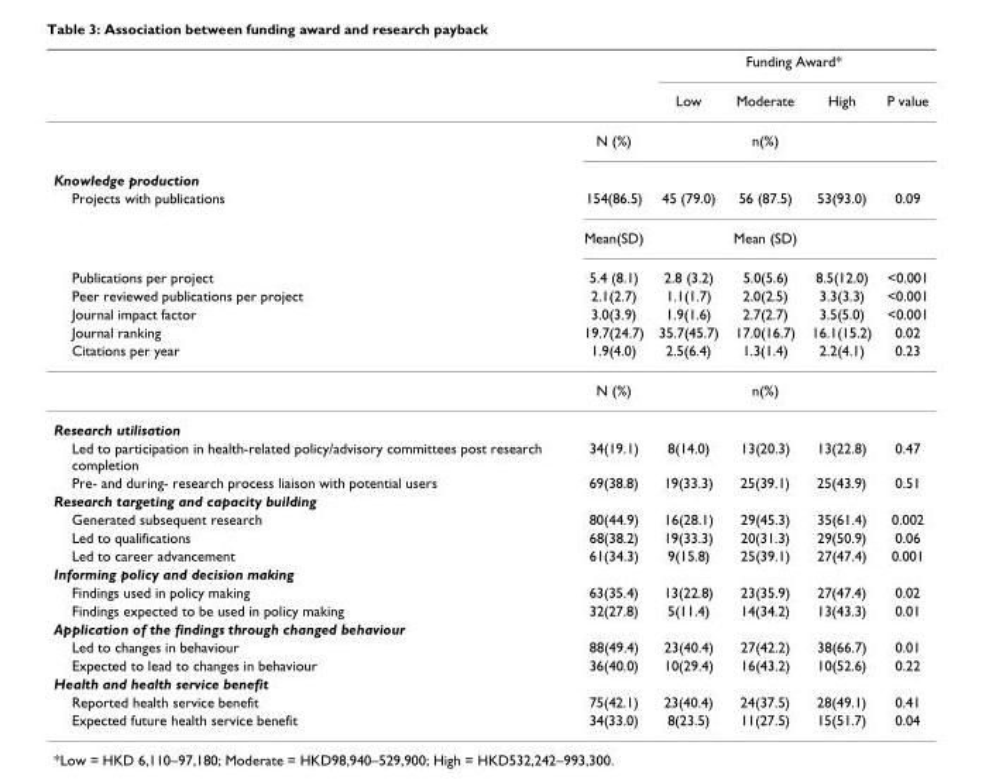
<table><thead><tr><td rowspan="2"></td><td rowspan="2"></td><td colspan="4">Funding Award*</td></tr><tr><td>Low</td><td>Moderate</td><td>High</td><td>P value</td></tr></thead><tbody><tr><td></td><td>N (%)</td><td></td><td>n(%)</td><td></td><td></td></tr><tr><td colspan="6">Knowledge production</td></tr><tr><td rowspan="2">Projects with publications</td><td>154(86.5)</td><td>45 (79.0)</td><td>56 (87.5)</td><td>53(93.0)</td><td>0.09</td></tr><tr><td>Mean(SD)</td><td></td><td>Mean (SD)</td><td></td><td></td></tr><tr><td>Publications per project</td><td>5.4 (8.1)</td><td>2.8 (3.2)</td><td>5.0(5.6)</td><td>8.5(12.0)</td><td>&lt;0.001</td></tr><tr><td>Peer reviewed publications per project</td><td>2.1(2.7)</td><td>1.1(1.7)</td><td>2.0(2.5)</td><td>3.3(3.3)</td><td>&lt;0.001</td></tr><tr><td>Journal impact factor</td><td>3.0(3.9)</td><td>1.9(1.6)</td><td>2.7(2.7)</td><td>3.5(5.0)</td><td>&lt;0.001</td></tr><tr><td>Journal ranking</td><td>19.7(24.7)</td><td>35.7(45.7)</td><td>17.0(16.7)</td><td>16.1(15.2)</td><td>0.02</td></tr><tr><td rowspan="2">Citations per year</td><td>1.9(4.0)</td><td>2.5(6.4)</td><td>1.3(1.4)</td><td>2.2(4.1)</td><td>0.23</td></tr><tr><td>N (%)</td><td></td><td>n(%)</td><td></td><td></td></tr><tr><td colspan="6">Research utilisation</td></tr><tr><td>Led to participation in health-related policy/advisory committees post research completion</td><td>34(19.1)</td><td>8(14.0)</td><td>13(20.3)</td><td>13(22.8)</td><td>0.47</td></tr><tr><td>Pre- and during- research process liaison with potential users</td><td>69(38.8)</td><td>19(33.3)</td><td>25(39.1)</td><td>25(43.9)</td><td>0.51</td></tr><tr><td colspan="6">Research targeting and capacity building</td></tr><tr><td>Generated subsequent research</td><td>80(44.9)</td><td>16(28.1)</td><td>29(45.3)</td><td>35(61.4)</td><td>0.002</td></tr><tr><td>Led to qualifications</td><td>68(38.2)</td><td>19(33.3)</td><td>20(31.3)</td><td>29(50.9)</td><td>0.06</td></tr><tr><td>Led to career advancement</td><td>61(34.3)</td><td>9(15.8)</td><td>25(39.1)</td><td>27(47.4)</td><td>0.001</td></tr><tr><td colspan="6">Informing policy and decision making</td></tr><tr><td>Findings used in policy making</td><td>63(35.4)</td><td>13(22.8)</td><td>23(35.9)</td><td>27(47.4)</td><td>0.02</td></tr><tr><td>Findings expected to be used in policy making</td><td>32(27.8)</td><td>5(11.4)</td><td>14(34.2)</td><td>13(43.3)</td><td>0.01</td></tr><tr><td colspan="6">Application of the findings through changed behaviour</td></tr><tr><td>Led to changes in behaviour</td><td>88(49.4)</td><td>23(40.4)</td><td>27(42.2)</td><td>38(66.7)</td><td>0.01</td></tr><tr><td>Expected to lead to changes in behaviour</td><td>36(40.0)</td><td>10(29.4)</td><td>16(43.2)</td><td>10(52.6)</td><td>0.22</td></tr><tr><td colspan="6">Health and health service benefit</td></tr><tr><td>Reported health service benefit</td><td>75(42.1)</td><td>23(40.4)</td><td>24(37.5)</td><td>28(49.1)</td><td>0.41</td></tr><tr><td>Expected future health service benefit</td><td>34(33.0)</td><td>8(23.5)</td><td>11(27.5)</td><td>15(51.7)</td><td>0.04</td></tr></tbody></table>